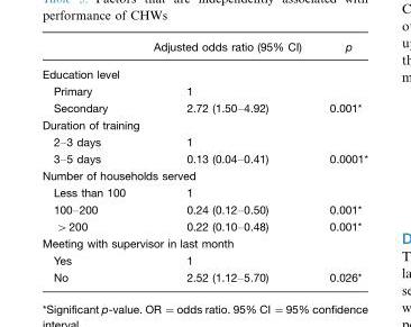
<table><thead><tr><td></td><td>Adjusted odds ratio (95% CI)</td><td>p</td></tr></thead><tbody><tr><td colspan="3">Education level</td></tr><tr><td>Primary</td><td>1</td><td></td></tr><tr><td>Secondary</td><td>2.72 (1.50–4.92)</td><td>0.001*</td></tr><tr><td colspan="3">Duration of training</td></tr><tr><td>2–3 days</td><td>1</td><td></td></tr><tr><td>3–5 days</td><td>0.13 (0.04–0.41)</td><td>0.0001*</td></tr><tr><td colspan="3">Number of households served</td></tr><tr><td>Less than 100</td><td>1</td><td></td></tr><tr><td>100–200</td><td>0.24 (0.12–0.50)</td><td>0.001*</td></tr><tr><td>&gt;200</td><td>0.22 (0.10–0.48)</td><td>0.001*</td></tr><tr><td colspan="3">Meeting with supervisor in last month</td></tr><tr><td>Yes</td><td>1</td><td></td></tr><tr><td>No</td><td>2.52 (1.12–5.70)</td><td>0.026*</td></tr></tbody></table>